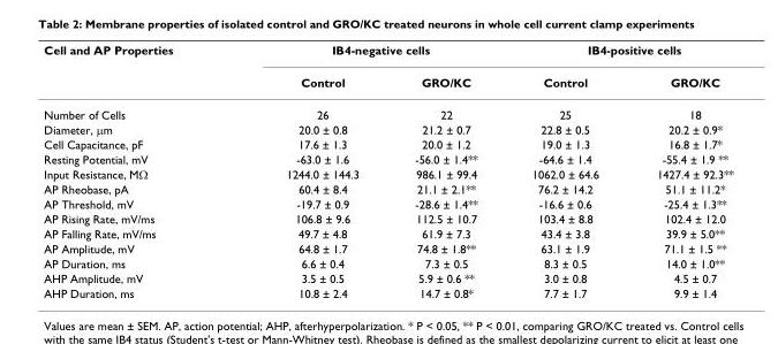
<table><thead><tr><td rowspan="2">Cell and AP Properties</td><td colspan="2">IB4-negative cells</td><td colspan="2">IB4-positive cells</td></tr><tr><td>Control</td><td>GRO/KC</td><td>Control</td><td>GRO/KC</td></tr></thead><tbody><tr><td>Number of Cells</td><td>26</td><td>22</td><td>25</td><td>18</td></tr><tr><td>Diameter, μm</td><td>20.0 ± 0.8</td><td>21.2 ± 0.7</td><td>22.8 ± 0.5</td><td>20.2 ± 0.9*</td></tr><tr><td>Cell Capacitance, pF</td><td>17.6 ± 1.3</td><td>20.0 ± 1.2</td><td>19.0 ± 1.3</td><td>16.8 ± 1.7*</td></tr><tr><td>Resting Potential, mV</td><td>-63.0 ± 1.6</td><td>-56.0 ± 1.4**</td><td>-64.6 ± 1.4</td><td>-55.4 ± 1.9 **</td></tr><tr><td>Input Resistance, MΩ</td><td>1244.0 ± 144.3</td><td>986.1 ± 99.4</td><td>1062.0 ± 64.6</td><td>1427.4 ± 92.3**</td></tr><tr><td>AP Rheobase, pA</td><td>60.4 ± 8.4</td><td>21.1 ± 2.1**</td><td>76.2 ± 14.2</td><td>51.1 ± 11.2*</td></tr><tr><td>AP Threshold, mV</td><td>-19.7 ± 0.9</td><td>-28.6 ± 1.4**</td><td>-16.6 ± 0.6</td><td>-25.4 ± 1.3**</td></tr><tr><td>AP Rising Rate, mV/ms</td><td>106.8 ± 9.6</td><td>112.5 ± 10.7</td><td>103.4 ± 8.8</td><td>102.4 ± 12.0</td></tr><tr><td>AP Falling Rate, mV/ms</td><td>49.7 ± 4.8</td><td>61.9 ± 7.3</td><td>43.4 ± 3.8</td><td>39.9 ± 5.0**</td></tr><tr><td>AP Amplitude, mV</td><td>64.8 ± 1.7</td><td>74.8 ± 1.8**</td><td>63.1 ± 1.9</td><td>71.1 ± 1.5 **</td></tr><tr><td>AP Duration, ms</td><td>6.6 ± 0.4</td><td>7.3 ± 0.5</td><td>8.3 ± 0.5</td><td>14.0 ± 1.0**</td></tr><tr><td>AHP Amplitude, mV</td><td>3.5 ± 0.5</td><td>5.9 ± 0.6 **</td><td>3.0 ± 0.8</td><td>4.5 ± 0.7</td></tr><tr><td>AHP Duration, ms</td><td>10.8 ± 2.4</td><td>14.7 ± 0.8*</td><td>7.7 ± 1.7</td><td>9.9 ± 1.4</td></tr></tbody></table>